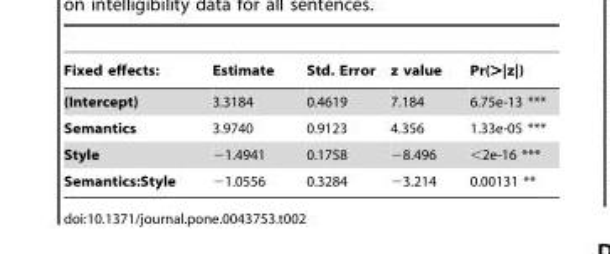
<table><thead><tr><td>Fixed effects:</td><td>Estimate</td><td>Std. Error</td><td>z value</td><td>Pr(&gt;|z|)</td></tr></thead><tbody><tr><td>(Intercept)</td><td>3.3184</td><td>0.4619</td><td>7.184</td><td>6.75e-13 ***</td></tr><tr><td>Semantics</td><td>3.9740</td><td>0.9123</td><td>4.356</td><td>1.33e-05 ***</td></tr><tr><td>Style</td><td>−1.4941</td><td>0.1758</td><td>−8.496</td><td>&lt;2e-16 ***</td></tr><tr><td>Semantics:Style</td><td>−1.0556</td><td>0.3284</td><td>−3.214</td><td>0.00131 **</td></tr></tbody></table>